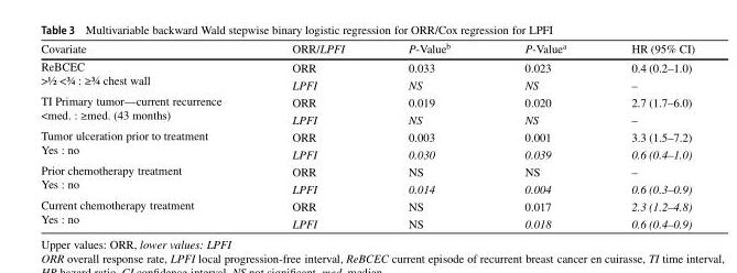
<table><thead><tr><td>Covariate</td><td>ORR/LPFI</td><td>P-Value<sup>b</sup></td><td>P-Value<sup>a</sup></td><td>HR (95% CI)</td></tr></thead><tbody><tr><td rowspan="2">ReBCEC &gt;½ &lt;¾ : ≥¾ chest wall</td><td>ORR</td><td>0.033</td><td>0.023</td><td>0.4 (0.2–1.0)</td></tr><tr><td>LPFI</td><td>NS</td><td>NS</td><td>–</td></tr><tr><td rowspan="2">TI Primary tumor—current recurrence &lt;med. : ≥med. (43 months)</td><td>ORR</td><td>0.019</td><td>0.020</td><td>2.7 (1.7–6.0)</td></tr><tr><td>LPFI</td><td>NS</td><td>NS</td><td>–</td></tr><tr><td rowspan="2">Tumor ulceration prior to treatment Yes : no</td><td>ORR</td><td>0.003</td><td>0.001</td><td>3.3 (1.5–7.2)</td></tr><tr><td>LPFI</td><td>0.030</td><td>0.039</td><td>0.6 (0.4–1.0)</td></tr><tr><td rowspan="2">Prior chemotherapy treatment Yes : no</td><td>ORR</td><td>NS</td><td>NS</td><td>–</td></tr><tr><td>LPFI</td><td>0.014</td><td>0.004</td><td>0.6 (0.3–0.9)</td></tr><tr><td rowspan="2">Current chemotherapy treatment Yes : no</td><td>ORR</td><td>NS</td><td>0.017</td><td>2.3 (1.2–4.8)</td></tr><tr><td>LPFI</td><td>NS</td><td>0.018</td><td>0.6 (0.4–0.9)</td></tr></tbody></table>